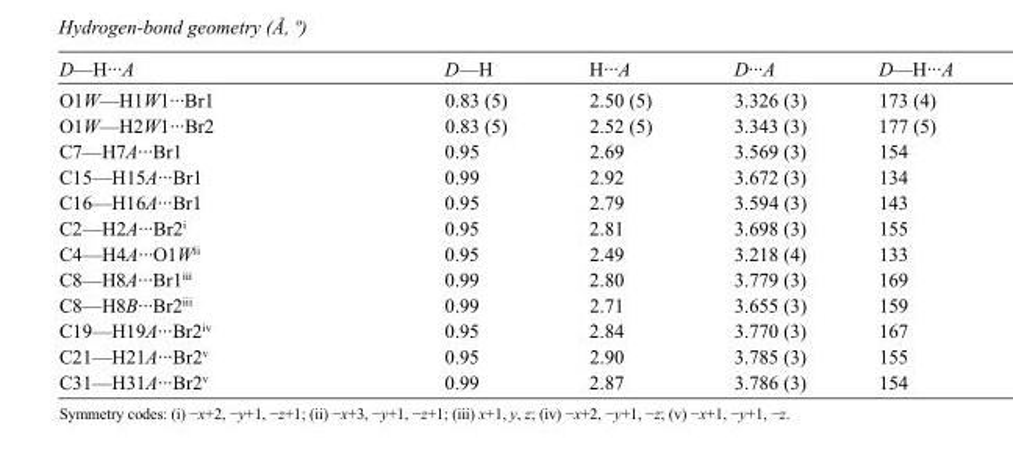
<table><tbody><tr><td>D—H···A</td><td>D—H</td><td>H···A</td><td>D···A</td><td>D—H···A</td></tr><tr><td>O1W—H1W1···Br1</td><td>0.83 (5)</td><td>2.50 (5)</td><td>3.326 (3)</td><td>173 (4)</td></tr><tr><td>O1W—H2W1···Br2</td><td>0.83 (5)</td><td>2.52 (5)</td><td>3.343 (3)</td><td>177 (5)</td></tr><tr><td>C7—H7A···Br1</td><td>0.95</td><td>2.69</td><td>3.569 (3)</td><td>154</td></tr><tr><td>C15—H15A···Br1</td><td>0.99</td><td>2.92</td><td>3.672 (3)</td><td>134</td></tr><tr><td>C16—H16A···Br1</td><td>0.95</td><td>2.79</td><td>3.594 (3)</td><td>143</td></tr><tr><td>C2—H2A···Br2<sup>i</sup></td><td>0.95</td><td>2.81</td><td>3.698 (3)</td><td>155</td></tr><tr><td>C4—H4A···O1W<sup>ii</sup></td><td>0.95</td><td>2.49</td><td>3.218 (4)</td><td>133</td></tr><tr><td>C8—H8A···Br1<sup>iii</sup></td><td>0.99</td><td>2.80</td><td>3.779 (3)</td><td>169</td></tr><tr><td>C8—H8B···Br2<sup>iii</sup></td><td>0.99</td><td>2.71</td><td>3.655 (3)</td><td>159</td></tr><tr><td>C19—H19A···Br2<sup>iv</sup></td><td>0.95</td><td>2.84</td><td>3.770 (3)</td><td>167</td></tr><tr><td>C21—H21A···Br2<sup>v</sup></td><td>0.95</td><td>2.90</td><td>3.785 (3)</td><td>155</td></tr><tr><td>C31—H31A···Br2<sup>v</sup></td><td>0.99</td><td>2.87</td><td>3.786 (3)</td><td>154</td></tr></tbody></table>